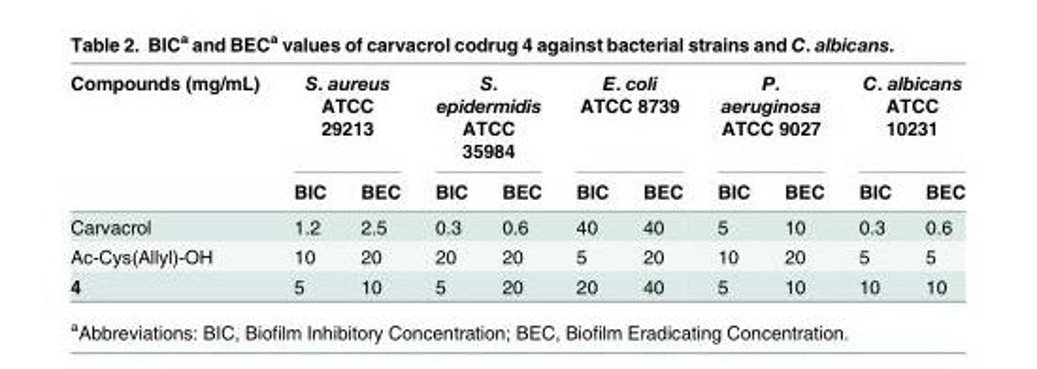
<table><thead><tr><td rowspan="2">Compounds (mg/mL)</td><td colspan="2">S. aureus ATCC 29213</td><td colspan="2">S. epidermidis ATCC 35984</td><td colspan="2">E. coli ATCC 8739</td><td colspan="2">P. aeruginosa ATCC 9027</td><td colspan="2">C. albicans ATCC 10231</td></tr><tr><td>BIC</td><td>BEC</td><td>BIC</td><td>BEC</td><td>BIC</td><td>BEC</td><td>BIC</td><td>BEC</td><td>BIC</td><td>BEC</td></tr></thead><tbody><tr><td>Carvacrol</td><td>1.2</td><td>2.5</td><td>0.3</td><td>0.6</td><td>40</td><td>40</td><td>5</td><td>10</td><td>0.3</td><td>0.6</td></tr><tr><td>Ac-Cys(Allyl)-OH</td><td>10</td><td>20</td><td>20</td><td>20</td><td>5</td><td>20</td><td>10</td><td>20</td><td>5</td><td>5</td></tr><tr><td>4</td><td>5</td><td>10</td><td>5</td><td>20</td><td>20</td><td>40</td><td>5</td><td>10</td><td>10</td><td>10</td></tr></tbody></table>